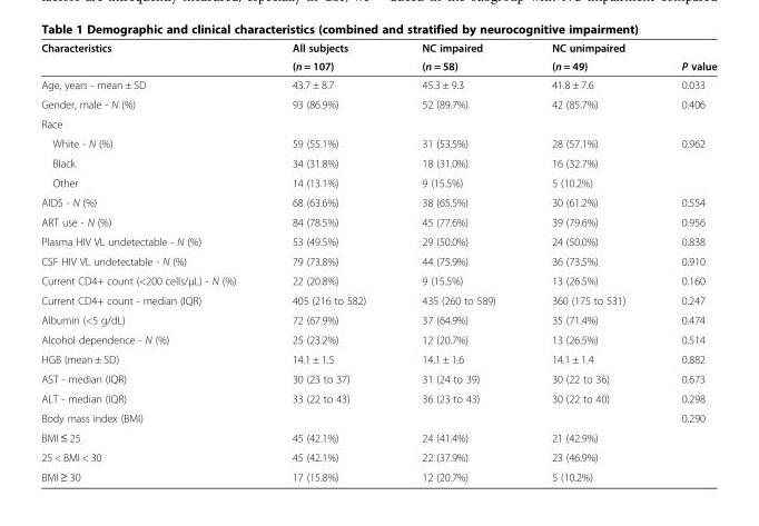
<table><thead><tr><td rowspan="2">Characteristics</td><td rowspan="2">All subjects (n = 107)</td><td rowspan="2">NC impaired (n = 58)</td><td rowspan="2">NC unimpaired (n = 49)</td><td rowspan="2">P value</td></tr><tr></tr></thead><tbody><tr><td>Age, years - mean ± SD</td><td>43.7 ± 8.7</td><td>45.3 ± 9.3</td><td>41.8 ± 7.6</td><td>0.033</td></tr><tr><td>Gender, male - N (%)</td><td>93 (86.9%)</td><td>52 (89.7%)</td><td>42 (85.7%)</td><td>0.406</td></tr><tr><td colspan="5">Race</td></tr><tr><td>White - N (%)</td><td>59 (55.1%)</td><td>31 (53.5%)</td><td>28 (57.1%)</td><td>0.962</td></tr><tr><td>Black</td><td>34 (31.8%)</td><td>18 (31.0%)</td><td>16 (32.7%)</td><td></td></tr><tr><td>Other</td><td>14 (13.1%)</td><td>9 (15.5%)</td><td>5 (10.2%)</td><td></td></tr><tr><td>AIDS - N (%)</td><td>68 (63.6%)</td><td>38 (65.5%)</td><td>30 (61.2%)</td><td>0.554</td></tr><tr><td>ART use - N (%)</td><td>84 (78.5%)</td><td>45 (77.6%)</td><td>39 (79.6%)</td><td>0.956</td></tr><tr><td>Plasma HIV VL undetectable - N (%)</td><td>53 (49.5%)</td><td>29 (50.0%)</td><td>24 (50.0%)</td><td>0.838</td></tr><tr><td>CSF HIV VL undetectable - N (%)</td><td>79 (73.8%)</td><td>44 (75.9%)</td><td>36 (73.5%)</td><td>0.910</td></tr><tr><td>Current CD4+ count (&lt;200 cells/μL) - N (%)</td><td>22 (20.8%)</td><td>9 (15.5%)</td><td>13 (26.5%)</td><td>0.160</td></tr><tr><td>Current CD4+ count - median (IQR)</td><td>405 (216 to 582)</td><td>435 (260 to 589)</td><td>360 (175 to 531)</td><td>0.247</td></tr><tr><td>Albumin (&lt;5 g/dL)</td><td>72 (67.9%)</td><td>37 (64.9%)</td><td>35 (71.4%)</td><td>0.474</td></tr><tr><td>Alcohol dependence - N (%)</td><td>25 (23.2%)</td><td>12 (20.7%)</td><td>13 (26.5%)</td><td>0.514</td></tr><tr><td>HGB (mean ± SD)</td><td>14.1 ± 1.5</td><td>14.1 ± 1.6</td><td>14.1 ± 1.4</td><td>0.882</td></tr><tr><td>AST - median (IQR)</td><td>30 (23 to 37)</td><td>31 (24 to 39)</td><td>30 (22 to 36)</td><td>0.673</td></tr><tr><td>ALT - median (IQR)</td><td>33 (22 to 43)</td><td>36 (23 to 43)</td><td>30 (22 to 40)</td><td>0.298</td></tr><tr><td>Body mass index (BMI)</td><td></td><td></td><td></td><td>0.290</td></tr><tr><td>BMI ≤ 25</td><td>45 (42.1%)</td><td>24 (41.4%)</td><td>21 (42.9%)</td><td></td></tr><tr><td>25 &lt; BMI &lt; 30</td><td>45 (42.1%)</td><td>22 (37.9%)</td><td>23 (46.9%)</td><td></td></tr><tr><td>BMI ≥ 30</td><td>17 (15.8%)</td><td>12 (20.7%)</td><td>5 (10.2%)</td><td></td></tr></tbody></table>